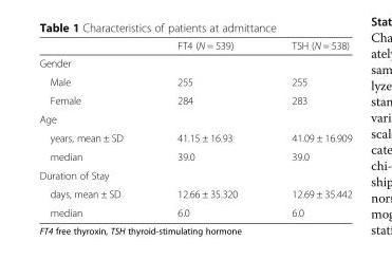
<table><thead><tr><td></td><td>FT4 (N = 539)</td><td>TSH (N = 538)</td></tr></thead><tbody><tr><td colspan="3">Gender</td></tr><tr><td>Male</td><td>255</td><td>255</td></tr><tr><td>Female</td><td>284</td><td>283</td></tr><tr><td colspan="3">Age</td></tr><tr><td>years, mean ± SD</td><td>41.15 ± 16.93</td><td>41.09 ± 16.909</td></tr><tr><td>median</td><td>39.0</td><td>39.0</td></tr><tr><td colspan="3">Duration of Stay</td></tr><tr><td>days, mean ± SD</td><td>12.66 ± 35.320</td><td>12.69 ± 35.442</td></tr><tr><td>median</td><td>6.0</td><td>6.0</td></tr></tbody></table>